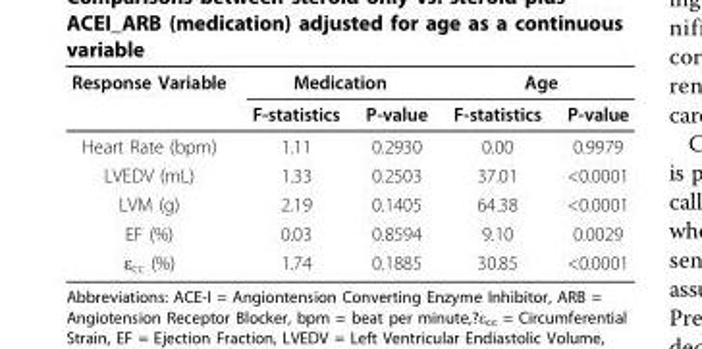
<table><thead><tr><td rowspan="2">Response Variable</td><td colspan="2">Medication</td><td colspan="2">Age</td></tr><tr><td>F-statistics</td><td>P-value</td><td>F-statistics</td><td>P-value</td></tr></thead><tbody><tr><td>Heart Rate (bpm)</td><td>1.11</td><td>0.2930</td><td>0.00</td><td>0.9979</td></tr><tr><td>LVEDV (mL)</td><td>1.33</td><td>0.2503</td><td>37.01</td><td>&lt;0.0001</td></tr><tr><td>LVM (g)</td><td>2.19</td><td>0.1405</td><td>64.38</td><td>&lt;0.0001</td></tr><tr><td>EF (%)</td><td>0.03</td><td>0.8594</td><td>9.10</td><td>0.0029</td></tr><tr><td>ε<sub>cc</sub> (%)</td><td>1.74</td><td>0.1885</td><td>30.85</td><td>&lt;0.0001</td></tr></tbody></table>